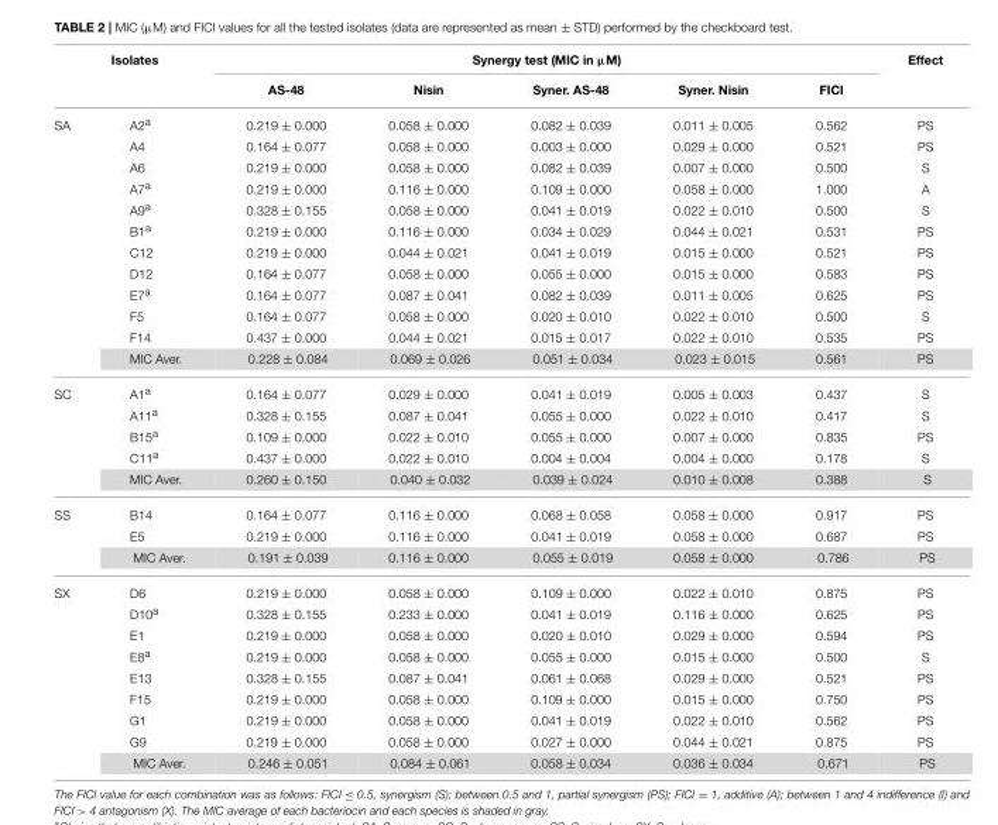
<table><thead><tr><td colspan="2">Isolates</td><td colspan="5">Synergy test (MIC in µM)</td><td rowspan="2">Effect</td></tr><tr><td></td><td></td><td>AS-48</td><td>Nisin</td><td>Syner. AS-48</td><td>Syner. Nisin</td><td>FICI</td></tr></thead><tbody><tr><td rowspan="12">SA</td><td>A2<sup>a</sup></td><td>0.219 ± 0.000</td><td>0.058 ± 0.000</td><td>0.082 ± 0.039</td><td>0.011 ± 0.005</td><td>0.562</td><td>PS</td></tr><tr><td>A4</td><td>0.164 ± 0.077</td><td>0.058 ± 0.000</td><td>0.003 ± 0.000</td><td>0.029 ± 0.000</td><td>0.521</td><td>PS</td></tr><tr><td>A6</td><td>0.219 ± 0.000</td><td>0.058 ± 0.000</td><td>0.082 ± 0.039</td><td>0.007 ± 0.000</td><td>0.500</td><td>S</td></tr><tr><td>A7<sup>a</sup></td><td>0.219 ± 0.000</td><td>0.116 ± 0.000</td><td>0.109 ± 0.000</td><td>0.058 ± 0.000</td><td>1.000</td><td>A</td></tr><tr><td>A9<sup>a</sup></td><td>0.328 ± 0.155</td><td>0.058 ± 0.000</td><td>0.041 ± 0.019</td><td>0.022 ± 0.010</td><td>0.500</td><td>S</td></tr><tr><td>B1<sup>a</sup></td><td>0.219 ± 0.000</td><td>0.116 ± 0.000</td><td>0.034 ± 0.029</td><td>0.044 ± 0.021</td><td>0.531</td><td>PS</td></tr><tr><td>C12</td><td>0.219 ± 0.000</td><td>0.044 ± 0.021</td><td>0.041 ± 0.019</td><td>0.015 ± 0.000</td><td>0.521</td><td>PS</td></tr><tr><td>D12</td><td>0.164 ± 0.077</td><td>0.058 ± 0.000</td><td>0.055 ± 0.000</td><td>0.015 ± 0.000</td><td>0.583</td><td>PS</td></tr><tr><td>E7<sup>a</sup></td><td>0.164 ± 0.077</td><td>0.087 ± 0.041</td><td>0.082 ± 0.039</td><td>0.011 ± 0.005</td><td>0.625</td><td>PS</td></tr><tr><td>F5</td><td>0.164 ± 0.077</td><td>0.058 ± 0.000</td><td>0.020 ± 0.010</td><td>0.022 ± 0.010</td><td>0.500</td><td>S</td></tr><tr><td>F14</td><td>0.437 ± 0.000</td><td>0.044 ± 0.021</td><td>0.015 ± 0.017</td><td>0.022 ± 0.010</td><td>0.535</td><td>PS</td></tr><tr><td>MIC Aver.</td><td>0.228 ± 0.084</td><td>0.069 ± 0.026</td><td>0.051 ± 0.034</td><td>0.023 ± 0.015</td><td>0.561</td><td>PS</td></tr><tr><td rowspan="5">SC</td><td>A1<sup>a</sup></td><td>0.164 ± 0.077</td><td>0.029 ± 0.000</td><td>0.041 ± 0.019</td><td>0.005 ± 0.003</td><td>0.437</td><td>S</td></tr><tr><td>A11<sup>a</sup></td><td>0.328 ± 0.155</td><td>0.087 ± 0.041</td><td>0.055 ± 0.000</td><td>0.022 ± 0.010</td><td>0.417</td><td>S</td></tr><tr><td>B15<sup>a</sup></td><td>0.109 ± 0.000</td><td>0.022 ± 0.010</td><td>0.055 ± 0.000</td><td>0.007 ± 0.000</td><td>0.835</td><td>PS</td></tr><tr><td>C11<sup>a</sup></td><td>0.437 ± 0.000</td><td>0.022 ± 0.010</td><td>0.004 ± 0.004</td><td>0.004 ± 0.000</td><td>0.178</td><td>S</td></tr><tr><td>MIC Aver.</td><td>0.260 ± 0.150</td><td>0.040 ± 0.032</td><td>0.039 ± 0.024</td><td>0.010 ± 0.008</td><td>0.388</td><td>S</td></tr><tr><td rowspan="3">SS</td><td>B14</td><td>0.164 ± 0.077</td><td>0.116 ± 0.000</td><td>0.068 ± 0.058</td><td>0.058 ± 0.000</td><td>0.917</td><td>PS</td></tr><tr><td>E5</td><td>0.219 ± 0.000</td><td>0.116 ± 0.000</td><td>0.041 ± 0.019</td><td>0.058 ± 0.000</td><td>0.687</td><td>PS</td></tr><tr><td>MIC Aver.</td><td>0.191 ± 0.039</td><td>0.116 ± 0.000</td><td>0.055 ± 0.019</td><td>0.058 ± 0.000</td><td>0.786</td><td>PS</td></tr><tr><td rowspan="9">SX</td><td>D6</td><td>0.219 ± 0.000</td><td>0.058 ± 0.000</td><td>0.109 ± 0.000</td><td>0.022 ± 0.010</td><td>0.875</td><td>PS</td></tr><tr><td>D10<sup>a</sup></td><td>0.328 ± 0.155</td><td>0.233 ± 0.000</td><td>0.041 ± 0.019</td><td>0.116 ± 0.000</td><td>0.625</td><td>PS</td></tr><tr><td>E1</td><td>0.219 ± 0.000</td><td>0.058 ± 0.000</td><td>0.020 ± 0.010</td><td>0.029 ± 0.000</td><td>0.594</td><td>PS</td></tr><tr><td>E8<sup>a</sup></td><td>0.219 ± 0.000</td><td>0.058 ± 0.000</td><td>0.055 ± 0.000</td><td>0.015 ± 0.000</td><td>0.500</td><td>S</td></tr><tr><td>E13</td><td>0.328 ± 0.155</td><td>0.087 ± 0.041</td><td>0.061 ± 0.068</td><td>0.029 ± 0.000</td><td>0.521</td><td>PS</td></tr><tr><td>F15</td><td>0.219 ± 0.000</td><td>0.058 ± 0.000</td><td>0.109 ± 0.000</td><td>0.015 ± 0.000</td><td>0.750</td><td>PS</td></tr><tr><td>G1</td><td>0.219 ± 0.000</td><td>0.058 ± 0.000</td><td>0.041 ± 0.019</td><td>0.022 ± 0.010</td><td>0.562</td><td>PS</td></tr><tr><td>G9</td><td>0.219 ± 0.000</td><td>0.058 ± 0.000</td><td>0.027 ± 0.000</td><td>0.044 ± 0.021</td><td>0.875</td><td>PS</td></tr><tr><td>MIC Aver.</td><td>0.246 ± 0.051</td><td>0.084 ± 0.061</td><td>0.058 ± 0.034</td><td>0.036 ± 0.034</td><td>0.671</td><td>PS</td></tr></tbody></table>